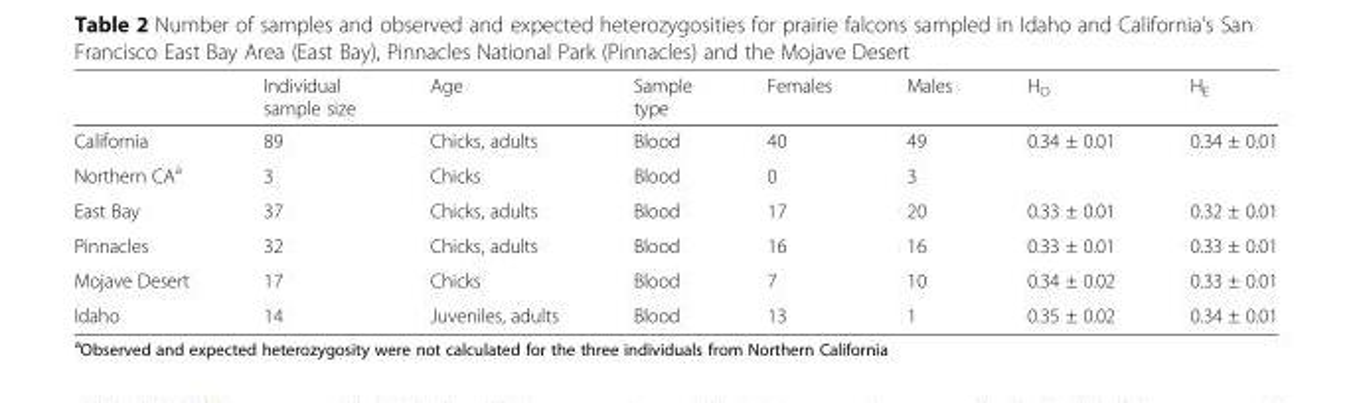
<table><thead><tr><td></td><td>Individual sample size</td><td>Age</td><td>Sample type</td><td>Females</td><td>Males</td><td>H<sub>O</sub></td><td>H<sub>E</sub></td></tr></thead><tbody><tr><td>California</td><td>89</td><td>Chicks, adults</td><td>Blood</td><td>40</td><td>49</td><td>0.34 ± 0.01</td><td>0.34 ± 0.01</td></tr><tr><td>Northern CA<sup>a</sup></td><td>3</td><td>Chicks</td><td>Blood</td><td>0</td><td>3</td><td></td><td></td></tr><tr><td>East Bay</td><td>37</td><td>Chicks, adults</td><td>Blood</td><td>17</td><td>20</td><td>0.33 ± 0.01</td><td>0.32 ± 0.01</td></tr><tr><td>Pinnacles</td><td>32</td><td>Chicks, adults</td><td>Blood</td><td>16</td><td>16</td><td>0.33 ± 0.01</td><td>0.33 ± 0.01</td></tr><tr><td>Mojave Desert</td><td>17</td><td>Chicks</td><td>Blood</td><td>7</td><td>10</td><td>0.34 ± 0.02</td><td>0.33 ± 0.01</td></tr><tr><td>Idaho</td><td>14</td><td>Juveniles, adults</td><td>Blood</td><td>13</td><td>1</td><td>0.35 ± 0.02</td><td>0.34 ± 0.01</td></tr></tbody></table>